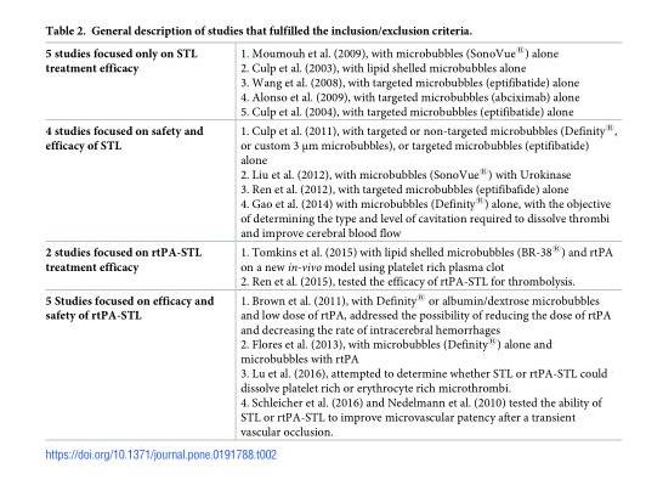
<table><tbody><tr><td>5 studies focused only on STL treatment efficacy</td><td>1. Moumouh et al. (2009), with microbubbles (SonoVue<sup>®</sup>) alone 2. Culp et al. (2003), with lipid shelled microbubbles alone 3. Wang et al. (2008), with targeted microbubbles (eptifibatide) alone 4. Alonso et al. (2009), with targeted microbubbles (abciximab) alone 5. Culp et al. (2004), with targeted microbubbles (eptifibatide) alone</td></tr><tr><td>4 studies focused on safety and efficacy of STL</td><td>1. Culp et al. (2011), with targeted or non-targeted microbubbles (Definity<sup>®</sup>, or custom 3 μm microbubbles), or targeted microbubbles (eptifibatide) alone 2. Liu et al. (2012), with microbubbles (SonoVue<sup>®</sup>) with Urokinase 3. Ren et al. (2012), with targeted microbubbles (eptifibafide) alone 4. Gao et al. (2014) with microbubbles (Definity<sup>®</sup>) alone, with the objective of determining the type and level of cavitation required to dissolve thrombi and improve cerebral blood flow</td></tr><tr><td>2 studies focused on rtPA-STL treatment efficacy</td><td>1. Tomkins et al. (2015) with lipid shelled microbubbles (BR-38<sup>®</sup>) and rtPA on a new in-vivo model using platelet rich plasma clot 2. Ren et al. (2015), tested the efficacy of rtPA-STL for thrombolysis.</td></tr><tr><td>5 Studies focused on efficacy and safety of rtPA-STL</td><td>1. Brown et al. (2011), with Definity<sup>®</sup> or albumin/dextrose microbubbles and low dose of rtPA, addressed the possibility of reducing the dose of rtPA and decreasing the rate of intracerebral hemorrhages 2. Flores et al. (2013), with microbubbles (Definity<sup>®</sup>) alone and microbubbles with rtPA 3. Lu et al. (2016), attempted to determine whether STL or rtPA-STL could dissolve platelet rich or erythrocyte rich microthrombi. 4. Schleicher et al. (2016) and Nedelmann et al. (2010) tested the ability of STL or rtPA-STL to improve microvascular patency after a transient vascular occlusion.</td></tr></tbody></table>